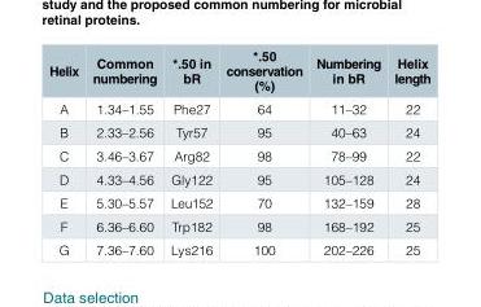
<table><thead><tr><td>Helix</td><td>Common numbering</td><td>*.50 in bR</td><td>*.50 conservation (%)</td><td>Numbering in bR</td><td>Helix length</td></tr></thead><tbody><tr><td>A</td><td>1.34–1.55</td><td>Phe27</td><td>64</td><td>11–32</td><td>22</td></tr><tr><td>B</td><td>2.33–2.56</td><td>Tyr57</td><td>95</td><td>40–63</td><td>24</td></tr><tr><td>C</td><td>3.46–3.67</td><td>Arg82</td><td>98</td><td>78–99</td><td>22</td></tr><tr><td>D</td><td>4.33–4.56</td><td>Gly122</td><td>95</td><td>105–128</td><td>24</td></tr><tr><td>E</td><td>5.30–5.57</td><td>Leu152</td><td>70</td><td>132–159</td><td>28</td></tr><tr><td>F</td><td>6.36–6.60</td><td>Trp182</td><td>98</td><td>168–192</td><td>25</td></tr><tr><td>G</td><td>7.36–7.60</td><td>Lys216</td><td>100</td><td>202–226</td><td>25</td></tr></tbody></table>